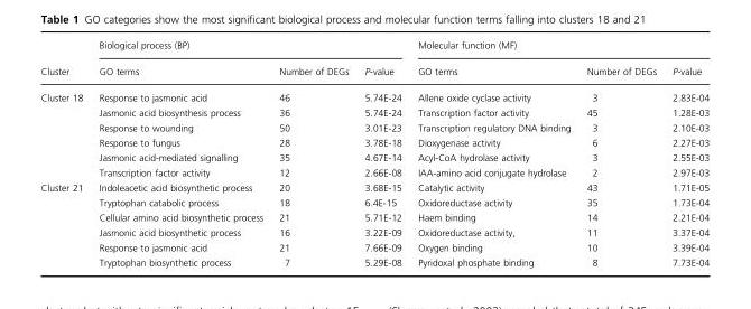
<table><thead><tr><td rowspan="2">Cluster</td><td colspan="3">Biological process (BP)</td><td colspan="3">Molecular function (MF)</td></tr><tr><td>GO terms</td><td>Number of DEGs</td><td>P-value</td><td>GO terms</td><td>Number of DEGs</td><td>P-value</td></tr></thead><tbody><tr><td rowspan="6">Cluster 18</td><td>Response to jasmonic acid</td><td>46</td><td>5.74E-24</td><td>Allene oxide cyclase activity</td><td>3</td><td>2.83E-04</td></tr><tr><td>Jasmonic acid biosynthesis process</td><td>36</td><td>5.74E-24</td><td>Transcription factor activity</td><td>45</td><td>1.28E-03</td></tr><tr><td>Response to wounding</td><td>50</td><td>3.01E-23</td><td>Transcription regulatory DNA binding</td><td>3</td><td>2.10E-03</td></tr><tr><td>Response to fungus</td><td>28</td><td>3.78E-18</td><td>Dioxygenase activity</td><td>6</td><td>2.27E-03</td></tr><tr><td>Jasmonic acid-mediated signalling</td><td>35</td><td>4.67E-14</td><td>Acyl-CoA hydrolase activity</td><td>3</td><td>2.55E-03</td></tr><tr><td>Transcription factor activity</td><td>12</td><td>2.66E-08</td><td>IAA-amino acid conjugate hydrolase</td><td>2</td><td>2.97E-03</td></tr><tr><td rowspan="6">Cluster 21</td><td>Indoleacetic acid biosynthetic process</td><td>20</td><td>3.68E-15</td><td>Catalytic activity</td><td>43</td><td>1.71E-05</td></tr><tr><td>Tryptophan catabolic process</td><td>18</td><td>6.4E-15</td><td>Oxidoreductase activity</td><td>35</td><td>1.73E-04</td></tr><tr><td>Cellular amino acid biosynthetic process</td><td>21</td><td>5.71E-12</td><td>Haem binding</td><td>14</td><td>2.21E-04</td></tr><tr><td>Jasmonic acid biosynthetic process</td><td>16</td><td>3.22E-09</td><td>Oxidoreductase activity,</td><td>11</td><td>3.37E-04</td></tr><tr><td>Response to jasmonic acid</td><td>21</td><td>7.66E-09</td><td>Oxygen binding</td><td>10</td><td>3.39E-04</td></tr><tr><td>Tryptophan biosynthetic process</td><td>7</td><td>5.29E-08</td><td>Pyridoxal phosphate binding</td><td>8</td><td>7.73E-04</td></tr></tbody></table>